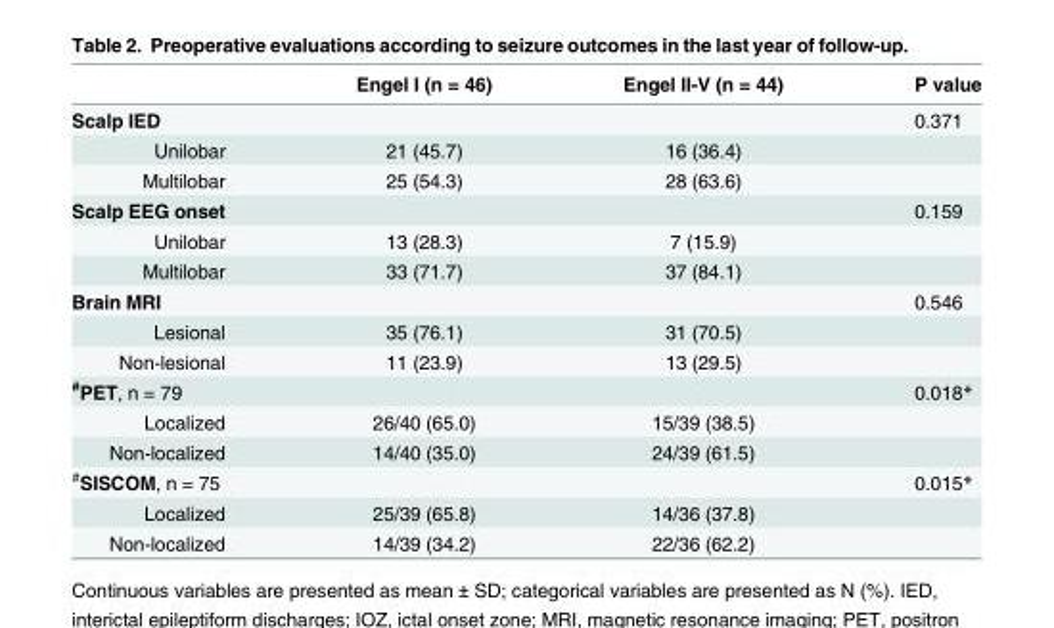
<table><thead><tr><td></td><td>Engel I (n = 46)</td><td>Engel II-V (n = 44)</td><td>P value</td></tr></thead><tbody><tr><td>Scalp IED</td><td></td><td></td><td>0.371</td></tr><tr><td>Unilobar</td><td>21 (45.7)</td><td>16 (36.4)</td><td></td></tr><tr><td>Multilobar</td><td>25 (54.3)</td><td>28 (63.6)</td><td></td></tr><tr><td>Scalp EEG onset</td><td></td><td></td><td>0.159</td></tr><tr><td>Unilobar</td><td>13 (28.3)</td><td>7 (15.9)</td><td></td></tr><tr><td>Multilobar</td><td>33 (71.7)</td><td>37 (84.1)</td><td></td></tr><tr><td>Brain MRI</td><td></td><td></td><td>0.546</td></tr><tr><td>Lesional</td><td>35 (76.1)</td><td>31 (70.5)</td><td></td></tr><tr><td>Non-lesional</td><td>11 (23.9)</td><td>13 (29.5)</td><td></td></tr><tr><td><sup>#</sup>PET, n = 79</td><td></td><td></td><td>0.018*</td></tr><tr><td>Localized</td><td>26/40 (65.0)</td><td>15/39 (38.5)</td><td></td></tr><tr><td>Non-localized</td><td>14/40 (35.0)</td><td>24/39 (61.5)</td><td></td></tr><tr><td><sup>#</sup>SISCOM, n = 75</td><td></td><td></td><td>0.015*</td></tr><tr><td>Localized</td><td>25/39 (65.8)</td><td>14/36 (37.8)</td><td></td></tr><tr><td>Non-localized</td><td>14/39 (34.2)</td><td>22/36 (62.2)</td><td></td></tr></tbody></table>